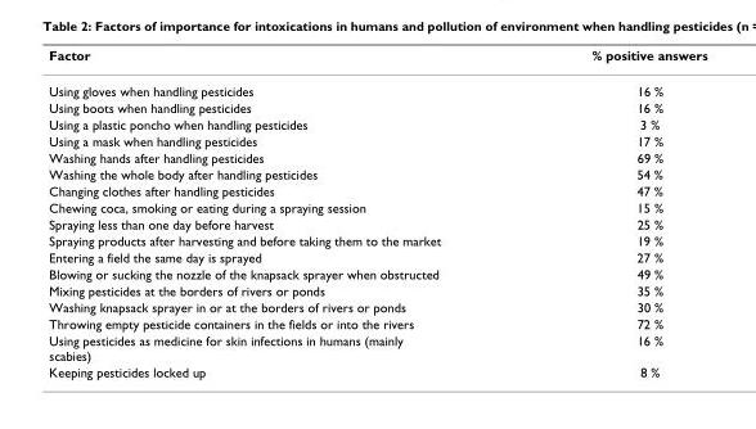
<table><thead><tr><td>Factor</td><td>% positive answers</td></tr></thead><tbody><tr><td>Using gloves when handling pesticides</td><td>16 %</td></tr><tr><td>Using boots when handling pesticides</td><td>16 %</td></tr><tr><td>Using a plastic poncho when handling pesticides</td><td>3 %</td></tr><tr><td>Using a mask when handling pesticides</td><td>17 %</td></tr><tr><td>Washing hands after handling pesticides</td><td>69 %</td></tr><tr><td>Washing the whole body after handling pesticides</td><td>54 %</td></tr><tr><td>Changing clothes after handling pesticides</td><td>47 %</td></tr><tr><td>Chewing coca, smoking or eating during a spraying session</td><td>15 %</td></tr><tr><td>Spraying less than one day before harvest</td><td>25 %</td></tr><tr><td>Spraying products after harvesting and before taking them to the market</td><td>19 %</td></tr><tr><td>Entering a field the same day is sprayed</td><td>27 %</td></tr><tr><td>Blowing or sucking the nozzle of the knapsack sprayer when obstructed</td><td>49 %</td></tr><tr><td>Mixing pesticides at the borders of rivers or ponds</td><td>35 %</td></tr><tr><td>Washing knapsack sprayer in or at the borders of rivers or ponds</td><td>30 %</td></tr><tr><td>Throwing empty pesticide containers in the fields or into the rivers</td><td>72 %</td></tr><tr><td>Using pesticides as medicine for skin infections in humans (mainly scabies)</td><td>16 %</td></tr><tr><td>Keeping pesticides locked up</td><td>8 %</td></tr></tbody></table>